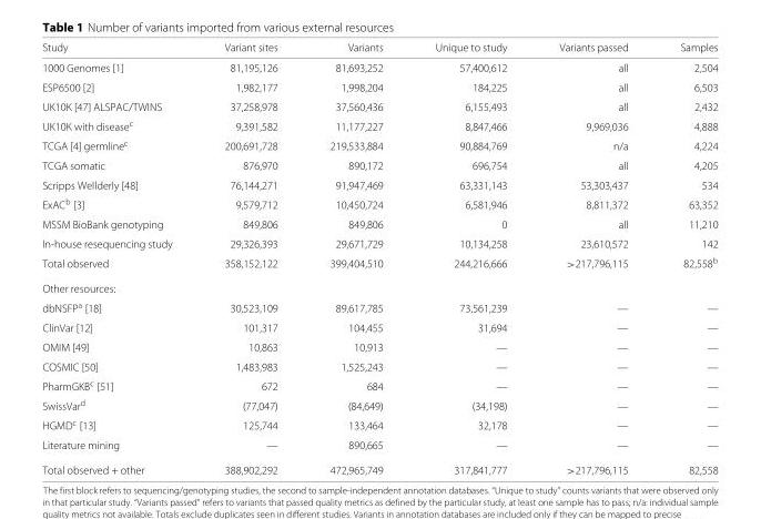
<table><thead><tr><td>Study</td><td>Variant sites</td><td>Variants</td><td>Unique to study</td><td>Variants passed</td><td>Samples</td></tr></thead><tbody><tr><td>1000 Genomes [1]</td><td>81,195,126</td><td>81,693,252</td><td>57,400,612</td><td>all</td><td>2,504</td></tr><tr><td>ESP6500 [2]</td><td>1,982,177</td><td>1,998,204</td><td>184,225</td><td>all</td><td>6,503</td></tr><tr><td>UK10K [47] ALSPAC/TWINS</td><td>37,258,978</td><td>37,560,436</td><td>6,155,493</td><td>all</td><td>2,432</td></tr><tr><td>UK10K with disease<sup>c</sup></td><td>9,391,582</td><td>11,177,227</td><td>8,847,466</td><td>9,969,036</td><td>4,888</td></tr><tr><td>TCGA [4] germline<sup>c</sup></td><td>200,691,728</td><td>219,533,884</td><td>90,884,769</td><td>n/a</td><td>4,224</td></tr><tr><td>TCGA somatic</td><td>876,970</td><td>890,172</td><td>696,754</td><td>all</td><td>4,205</td></tr><tr><td>Scripps Wellderly [48]</td><td>76,144,271</td><td>91,947,469</td><td>63,331,143</td><td>53,303,437</td><td>534</td></tr><tr><td>ExAC<sup>b</sup> [3]</td><td>9,579,712</td><td>10,450,724</td><td>6,581,946</td><td>8,811,372</td><td>63,352</td></tr><tr><td>MSSM BioBank genotyping</td><td>849,806</td><td>849,806</td><td>0</td><td>all</td><td>11,210</td></tr><tr><td>In-house resequencing study</td><td>29,326,393</td><td>29,671,729</td><td>10,134,258</td><td>23,610,572</td><td>142</td></tr><tr><td>Total observed</td><td>358,152,122</td><td>399,404,510</td><td>244,216,666</td><td>&gt;217,796,115</td><td>82,558<sup>b</sup></td></tr><tr><td colspan="6">Other resources:</td></tr><tr><td>dbNSFP<sup>a</sup> [18]</td><td>30,523,109</td><td>89,617,785</td><td>73,561,239</td><td>—</td><td>—</td></tr><tr><td>ClinVar [12]</td><td>101,317</td><td>104,455</td><td>31,694</td><td>—</td><td>—</td></tr><tr><td>OMIM [49]</td><td>10,863</td><td>10,913</td><td>—</td><td>—</td><td>—</td></tr><tr><td>COSMIC [50]</td><td>1,483,983</td><td>1,525,243</td><td>—</td><td>—</td><td>—</td></tr><tr><td>PharmGKB<sup>c</sup> [51]</td><td>672</td><td>684</td><td>—</td><td>—</td><td>—</td></tr><tr><td>SwissVar<sup>d</sup></td><td>(77,047)</td><td>(84,649)</td><td>(34,198)</td><td>—</td><td>—</td></tr><tr><td>HGMD<sup>c</sup> [13]</td><td>125,744</td><td>133,464</td><td>32,178</td><td>—</td><td>—</td></tr><tr><td>Literature mining</td><td>—</td><td>890,665</td><td>—</td><td>—</td><td>—</td></tr><tr><td>Total observed + other</td><td>388,902,292</td><td>472,965,749</td><td>317,841,777</td><td>&gt;217,796,115</td><td>82,558</td></tr></tbody></table>